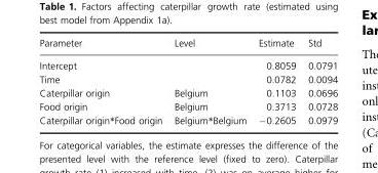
<table><thead><tr><td>Parameter</td><td>Level</td><td>Estimate</td><td>Std</td></tr></thead><tbody><tr><td>Intercept</td><td></td><td>0.8059</td><td>0.0791</td></tr><tr><td>Time</td><td></td><td>0.0782</td><td>0.0094</td></tr><tr><td>Caterpillar origin</td><td>Belgium</td><td>0.1103</td><td>0.0696</td></tr><tr><td>Food origin</td><td>Belgium</td><td>0.3713</td><td>0.0728</td></tr><tr><td>Caterpillar origin*Food origin</td><td>Belgium*Belgium</td><td>−0.2605</td><td>0.0979</td></tr></tbody></table>